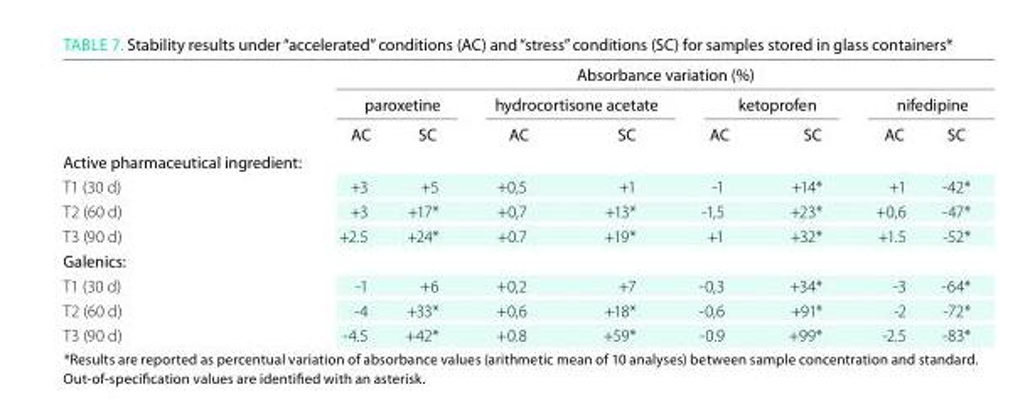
<table><thead><tr><td rowspan="3"></td><td colspan="8">Absorbance variation (%)</td></tr><tr><td colspan="2">paroxetine</td><td colspan="2">hydrocortisone acetate</td><td colspan="2">ketoprofen</td><td colspan="2">nifedipine</td></tr><tr><td>AC</td><td>sC</td><td>AC</td><td>sC</td><td>AC</td><td>sC</td><td>AC</td><td>sC</td></tr></thead><tbody><tr><td colspan="9">Active pharmaceutical ingredient:</td></tr><tr><td>T1 (30 d)</td><td>+3</td><td>+5</td><td>+0,5</td><td>+1</td><td>-1</td><td>+14*</td><td>+1</td><td>-42*</td></tr><tr><td>T2 (60 d)</td><td>+3</td><td>+17*</td><td>+0,7</td><td>+13*</td><td>-1,5</td><td>+23*</td><td>+0,6</td><td>-47*</td></tr><tr><td>T3 (90 d)</td><td>+2.5</td><td>+24*</td><td>+0.7</td><td>+19*</td><td>+1</td><td>+32*</td><td>+1.5</td><td>-52*</td></tr><tr><td colspan="9">Galenics:</td></tr><tr><td>T1 (30 d)</td><td>-1</td><td>+6</td><td>+0,2</td><td>+7</td><td>-0,3</td><td>+34*</td><td>-3</td><td>-64*</td></tr><tr><td>T2 (60 d)</td><td>-4</td><td>+33*</td><td>+0,6</td><td>+18*</td><td>-0,6</td><td>+91*</td><td>-2</td><td>-72*</td></tr><tr><td>T3 (90 d)</td><td>-4.5</td><td>+42*</td><td>+0.8</td><td>+59*</td><td>-0.9</td><td>+99*</td><td>-2.5</td><td>-83*</td></tr></tbody></table>